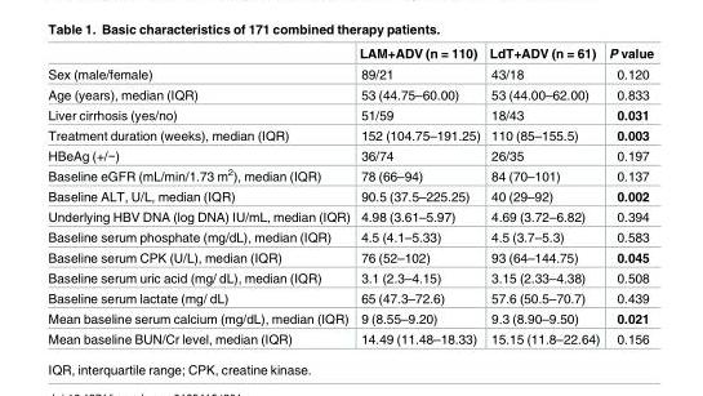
<table><thead><tr><td></td><td>LAM+ADV (n = 110)</td><td>LdT+ADV (n = 61)</td><td>P value</td></tr></thead><tbody><tr><td>Sex (male/female)</td><td>89/21</td><td>43/18</td><td>0.120</td></tr><tr><td>Age (years), median (IQR)</td><td>53 (44.75–60.00)</td><td>53 (44.00–62.00)</td><td>0.833</td></tr><tr><td>Liver cirrhosis (yes/no)</td><td>51/59</td><td>18/43</td><td>0.031</td></tr><tr><td>Treatment duration (weeks), median (IQR)</td><td>152 (104.75–191.25)</td><td>110 (85–155.5)</td><td>0.003</td></tr><tr><td>HBeAg (+/−)</td><td>36/74</td><td>26/35</td><td>0.197</td></tr><tr><td>Baseline eGFR (mL/min/1.73 m<sup>2</sup>), median (IQR)</td><td>78 (66–94)</td><td>84 (70–101)</td><td>0.137</td></tr><tr><td>Baseline ALT, U/L, median (IQR)</td><td>90.5 (37.5–225.25)</td><td>40 (29–92)</td><td>0.002</td></tr><tr><td>Underlying HBV DNA (log DNA) IU/mL, median (IQR)</td><td>4.98 (3.61–5.97)</td><td>4.69 (3.72–6.82)</td><td>0.394</td></tr><tr><td>Baseline serum phosphate (mg/dL), median (IQR)</td><td>4.5 (4.1–5.33)</td><td>4.5 (3.7–5.3)</td><td>0.583</td></tr><tr><td>Baseline serum CPK (U/L), median (IQR)</td><td>76 (52–102)</td><td>93 (64–144.75)</td><td>0.045</td></tr><tr><td>Baseline serum uric acid (mg/ dL), median (IQR)</td><td>3.1 (2.3–4.15)</td><td>3.15 (2.33–4.38)</td><td>0.508</td></tr><tr><td>Baseline serum lactate (mg/ dL)</td><td>65 (47.3–72.6)</td><td>57.6 (50.5–70.7)</td><td>0.439</td></tr><tr><td>Mean baseline serum calcium (mg/dL), median (IQR)</td><td>9 (8.55–9.20)</td><td>9.3 (8.90–9.50)</td><td>0.021</td></tr><tr><td>Mean baseline BUN/Cr level, median (IQR)</td><td>14.49 (11.48–18.33)</td><td>15.15 (11.8–22.64)</td><td>0.156</td></tr></tbody></table>